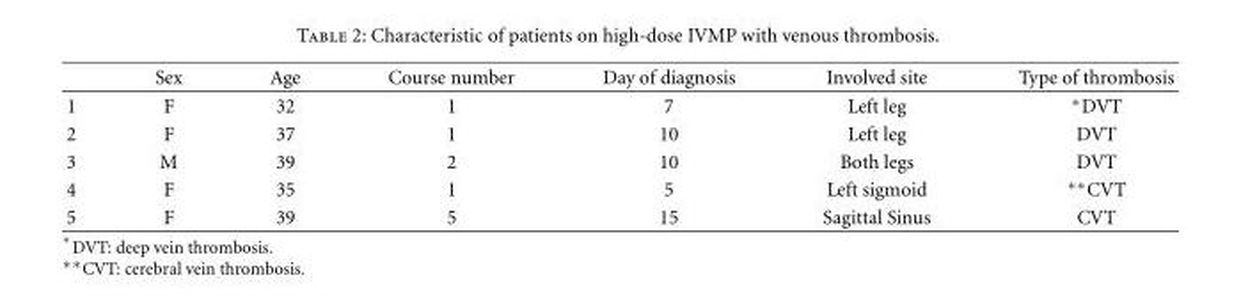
<table><thead><tr><td></td><td>Sex</td><td>Age</td><td>Course number</td><td>Day of diagnosis</td><td>Involved site</td><td>Type of thrombosis</td></tr></thead><tbody><tr><td>1</td><td>F</td><td>32</td><td>1</td><td>7</td><td>Left leg</td><td>∗DVT</td></tr><tr><td>2</td><td>F</td><td>37</td><td>1</td><td>10</td><td>Left leg</td><td>DVT</td></tr><tr><td>3</td><td>M</td><td>39</td><td>2</td><td>10</td><td>Both legs</td><td>DVT</td></tr><tr><td>4</td><td>F</td><td>35</td><td>1</td><td>5</td><td>Left sigmoid</td><td>∗∗CVT</td></tr><tr><td>5</td><td>F</td><td>39</td><td>5</td><td>15</td><td>Sagittal Sinus</td><td>CVT</td></tr></tbody></table>